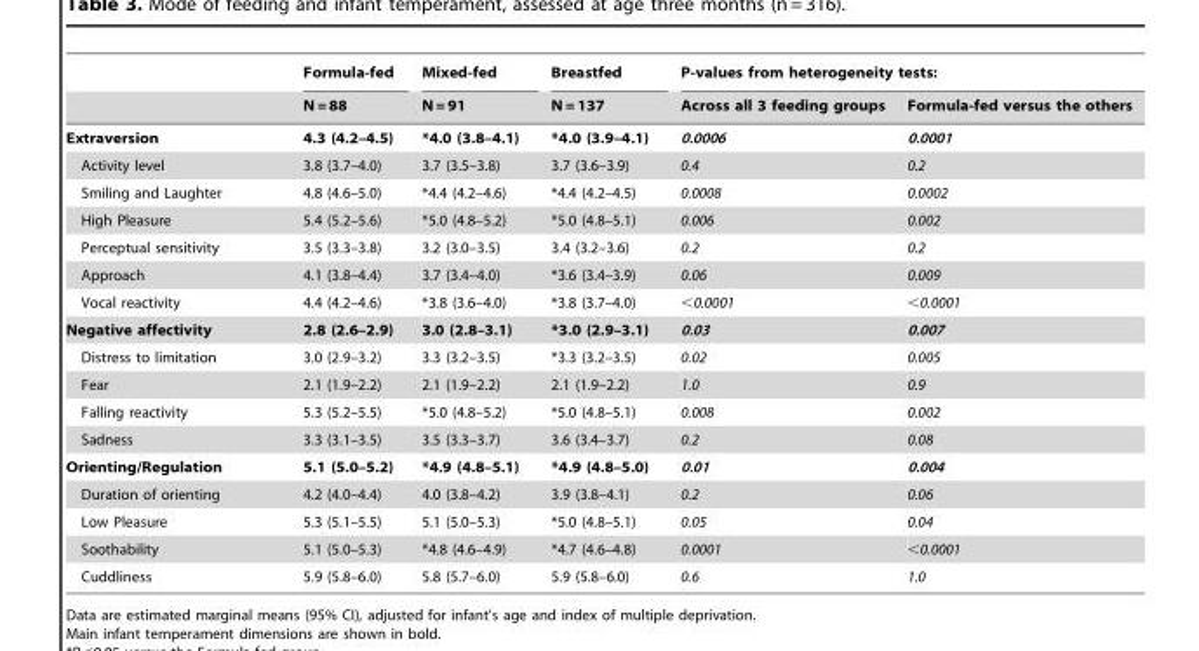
<table><thead><tr><td rowspan="2"></td><td rowspan="2">Formula-fed N = 88</td><td rowspan="2">Mixed-fed N = 91</td><td rowspan="2">Breastfed N = 137</td><td colspan="2">P-values from heterogeneity tests:</td></tr><tr><td>Across all 3 feeding groups</td><td>Formula-fed versus the others</td></tr></thead><tbody><tr><td>Extraversion</td><td>4.3 (4.2–4.5)</td><td>*4.0 (3.8–4.1)</td><td>*4.0 (3.9–4.1)</td><td>0.0006</td><td>0.0001</td></tr><tr><td>Activity level</td><td>3.8 (3.7–4.0)</td><td>3.7 (3.5–3.8)</td><td>3.7 (3.6–3.9)</td><td>0.4</td><td>0.2</td></tr><tr><td>Smiling and Laughter</td><td>4.8 (4.6–5.0)</td><td>*4.4 (4.2–4.6)</td><td>*4.4 (4.2–4.5)</td><td>0.0008</td><td>0.0002</td></tr><tr><td>High Pleasure</td><td>5.4 (5.2–5.6)</td><td>*5.0 (4.8–5.2)</td><td>*5.0 (4.8–5.1)</td><td>0.006</td><td>0.002</td></tr><tr><td>Perceptual sensitivity</td><td>3.5 (3.3–3.8)</td><td>3.2 (3.0–3.5)</td><td>3.4 (3.2–3.6)</td><td>0.2</td><td>0.2</td></tr><tr><td>Approach</td><td>4.1 (3.8–4.4)</td><td>3.7 (3.4–4.0)</td><td>*3.6 (3.4–3.9)</td><td>0.06</td><td>0.009</td></tr><tr><td>Vocal reactivity</td><td>4.4 (4.2–4.6)</td><td>*3.8 (3.6–4.0)</td><td>*3.8 (3.7–4.0)</td><td>&lt;0.0001</td><td>&lt;0.0001</td></tr><tr><td>Negative affectivity</td><td>2.8 (2.6–2.9)</td><td>3.0 (2.8–3.1)</td><td>*3.0 (2.9–3.1)</td><td>0.03</td><td>0.007</td></tr><tr><td>Distress to limitation</td><td>3.0 (2.9–3.2)</td><td>3.3 (3.2–3.5)</td><td>*3.3 (3.2–3.5)</td><td>0.02</td><td>0.005</td></tr><tr><td>Fear</td><td>2.1 (1.9–2.2)</td><td>2.1 (1.9–2.2)</td><td>2.1 (1.9–2.2)</td><td>1.0</td><td>0.9</td></tr><tr><td>Falling reactivity</td><td>5.3 (5.2–5.5)</td><td>*5.0 (4.8–5.2)</td><td>*5.0 (4.8–5.1)</td><td>0.008</td><td>0.002</td></tr><tr><td>Sadness</td><td>3.3 (3.1–3.5)</td><td>3.5 (3.3–3.7)</td><td>3.6 (3.4–3.7)</td><td>0.2</td><td>0.08</td></tr><tr><td>Orienting/Regulation</td><td>5.1 (5.0–5.2)</td><td>*4.9 (4.8–5.1)</td><td>*4.9 (4.8–5.0)</td><td>0.01</td><td>0.004</td></tr><tr><td>Duration of orienting</td><td>4.2 (4.0–4.4)</td><td>4.0 (3.8–4.2)</td><td>3.9 (3.8–4.1)</td><td>0.2</td><td>0.06</td></tr><tr><td>Low Pleasure</td><td>5.3 (5.1–5.5)</td><td>5.1 (5.0–5.3)</td><td>*5.0 (4.8–5.1)</td><td>0.05</td><td>0.04</td></tr><tr><td>Soothability</td><td>5.1 (5.0–5.3)</td><td>*4.8 (4.6–4.9)</td><td>*4.7 (4.6–4.8)</td><td>0.0001</td><td>&lt;0.0001</td></tr><tr><td>Cuddliness</td><td>5.9 (5.8–6.0)</td><td>5.8 (5.7–6.0)</td><td>5.9 (5.8–6.0)</td><td>0.6</td><td>1.0</td></tr></tbody></table>